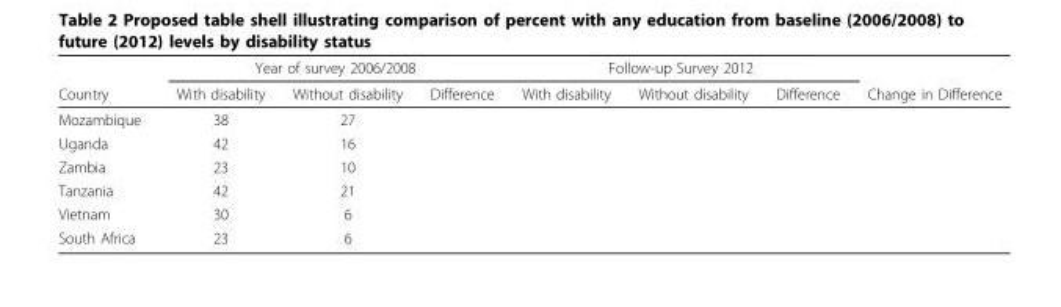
<table><thead><tr><td rowspan="2">Country</td><td colspan="3">Year of survey 2006/2008</td><td colspan="3">Follow-up Survey 2012</td><td rowspan="2">Change in Difference</td></tr><tr><td>With disability</td><td>Without disability</td><td>Difference</td><td>With disability</td><td>Without disability</td><td>Difference</td></tr></thead><tbody><tr><td>Mozambique</td><td>38</td><td>27</td><td></td><td></td><td></td><td></td><td></td></tr><tr><td>Uganda</td><td>42</td><td>16</td><td></td><td></td><td></td><td></td><td></td></tr><tr><td>Zambia</td><td>23</td><td>10</td><td></td><td></td><td></td><td></td><td></td></tr><tr><td>Tanzania</td><td>42</td><td>21</td><td></td><td></td><td></td><td></td><td></td></tr><tr><td>Vietnam</td><td>30</td><td>6</td><td></td><td></td><td></td><td></td><td></td></tr><tr><td>South Africa</td><td>23</td><td>6</td><td></td><td></td><td></td><td></td><td></td></tr></tbody></table>